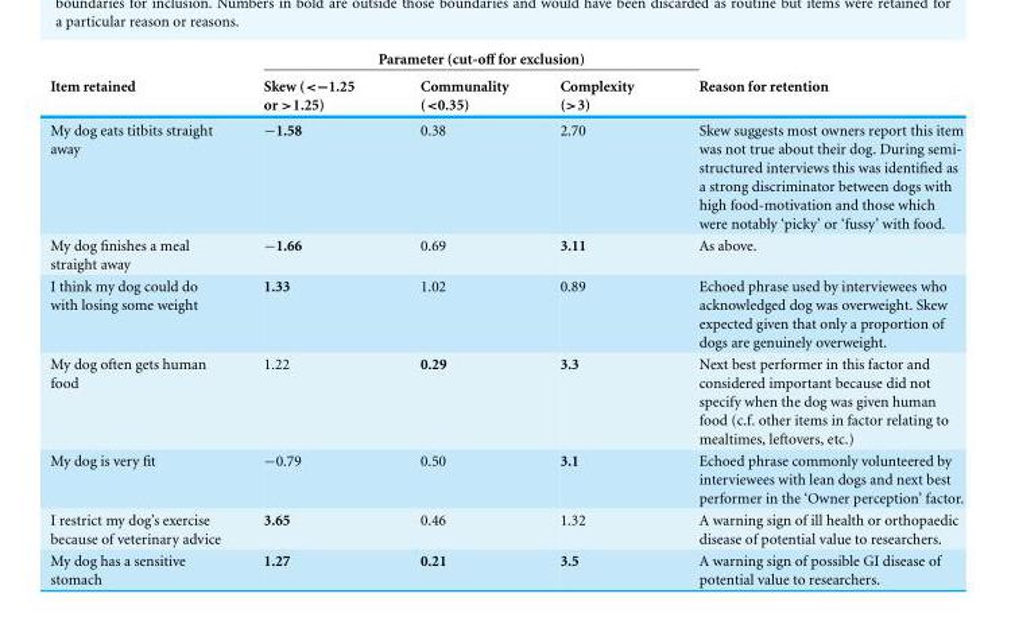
<table><thead><tr><td rowspan="2">Item retained</td><td colspan="3">Parameter (cut-off for exclusion)</td><td rowspan="2">Reason for retention</td></tr><tr><td>Skew (&lt;−1.25 or &gt;1.25)</td><td>Communality (&lt;0.35)</td><td>Complexity (&gt;3)</td></tr></thead><tbody><tr><td>My dog eats titbits straight away</td><td>−1.58</td><td>0.38</td><td>2.70</td><td>Skew suggests most owners report this item was not true about their dog. During semi- structured interviews this was identified as a strong discriminator between dogs with high food-motivation and those which were notably ‘picky’ or ‘fussy’ with food.</td></tr><tr><td>My dog finishes a meal straight away</td><td>−1.66</td><td>0.69</td><td>3.11</td><td>As above.</td></tr><tr><td>I think my dog could do with losing some weight</td><td>1.33</td><td>1.02</td><td>0.89</td><td>Echoed phrase used by interviewees who acknowledged dog was overweight. Skew expected given that only a proportion of dogs are genuinely overweight.</td></tr><tr><td>My dog often gets human food</td><td>1.22</td><td>0.29</td><td>3.3</td><td>Next best performer in this factor and considered important because did not specify when the dog was given human food (c.f. other items in factor relating to mealtimes, leftovers, etc.)</td></tr><tr><td>My dog is very fit</td><td>−0.79</td><td>0.50</td><td>3.1</td><td>Echoed phrase commonly volunteered by interviewees with lean dogs and next best performer in the ‘Owner perception’ factor.</td></tr><tr><td>I restrict my dog’s exercise because of veterinary advice</td><td>3.65</td><td>0.46</td><td>1.32</td><td>A warning sign of ill health or orthopaedic disease of potential value to researchers.</td></tr><tr><td>My dog has a sensitive stomach</td><td>1.27</td><td>0.21</td><td>3.5</td><td>A warning sign of possible GI disease of potential value to researchers.</td></tr></tbody></table>